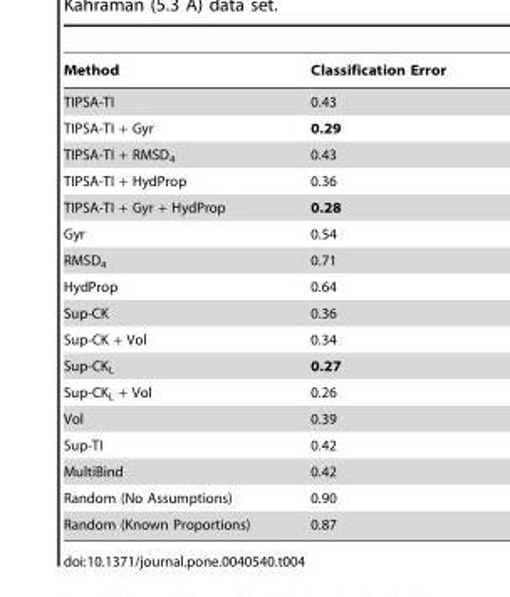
<table><thead><tr><td>Method</td><td>Classification Error</td></tr></thead><tbody><tr><td>TIPSA-TI</td><td>0.43</td></tr><tr><td>TIPSA-TI + Gyr</td><td>0.29</td></tr><tr><td>TIPSA-TI + RMSD<sub>4</sub></td><td>0.43</td></tr><tr><td>TIPSA-TI + HydProp</td><td>0.36</td></tr><tr><td>TIPSA-TI + Gyr + HydProp</td><td>0.28</td></tr><tr><td>Gyr</td><td>0.54</td></tr><tr><td>RMSD<sub>4</sub></td><td>0.71</td></tr><tr><td>HydProp</td><td>0.64</td></tr><tr><td>Sup-CK</td><td>0.36</td></tr><tr><td>Sup-CK + Vol</td><td>0.34</td></tr><tr><td>Sup-CK<sub>L</sub></td><td>0.27</td></tr><tr><td>Sup-CK<sub>L</sub> + Vol</td><td>0.26</td></tr><tr><td>Vol</td><td>0.39</td></tr><tr><td>Sup-TI</td><td>0.42</td></tr><tr><td>MultiBind</td><td>0.42</td></tr><tr><td>Random (No Assumptions)</td><td>0.90</td></tr><tr><td>Random (Known Proportions)</td><td>0.87</td></tr></tbody></table>